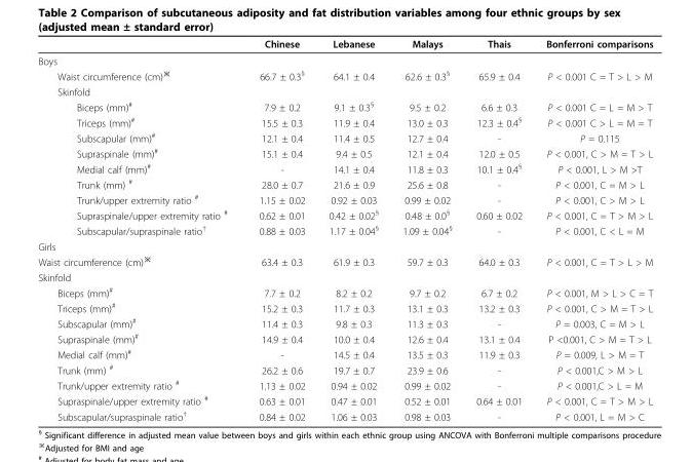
<table><thead><tr><td></td><td>Chinese</td><td>Lebanese</td><td>Malays</td><td>Thais</td><td>Bonferroni comparisons</td></tr></thead><tbody><tr><td colspan="6">Boys</td></tr><tr><td>Waist circumference (cm)<sup>※</sup></td><td>66.7 ± 0.3<sup>§</sup></td><td>64.1 ± 0.4</td><td>62.6 ± 0.3<sup>§</sup></td><td>65.9 ± 0.4</td><td>P &lt; 0.001 C = T &gt; L &gt; M</td></tr><tr><td colspan="6">Skinfold</td></tr><tr><td>Biceps (mm)<sup>#</sup></td><td>7.9 ± 0.2</td><td>9.1 ± 0.3<sup>§</sup></td><td>9.5 ± 0.2</td><td>6.6 ± 0.3</td><td>P &lt; 0.001 C = L = M &gt; T</td></tr><tr><td>Triceps (mm)<sup>#</sup></td><td>15.5 ± 0.3</td><td>11.9 ± 0.4</td><td>13.0 ± 0.3</td><td>12.3 ± 0.4<sup>§</sup></td><td>P &lt; 0.001 C &gt; L = M = T</td></tr><tr><td>Subscapular (mm)<sup>#</sup></td><td>12.1 ± 0.4</td><td>11.4 ± 0.5</td><td>12.7 ± 0.4</td><td>-</td><td>P = 0.115</td></tr><tr><td>Supraspinale (mm)<sup>#</sup></td><td>15.1 ± 0.4</td><td>9.4 ± 0.5</td><td>12.1 ± 0.4</td><td>12.0 ± 0.5</td><td>P &lt; 0.001, C &gt; M = T &gt; L</td></tr><tr><td>Medial calf (mm)<sup>#</sup></td><td>-</td><td>14.1 ± 0.4</td><td>11.8 ± 0.3</td><td>10.1 ± 0.4<sup>§</sup></td><td>P &lt; 0.001, L &gt; M &gt;T</td></tr><tr><td>Trunk (mm) <sup>#</sup></td><td>28.0 ± 0.7</td><td>21.6 ± 0.9</td><td>25.6 ± 0.8</td><td>-</td><td>P &lt; 0.001, C = M &gt; L</td></tr><tr><td>Trunk/upper extremity ratio <sup>#</sup></td><td>1.15 ± 0.02</td><td>0.92 ± 0.03</td><td>0.99 ± 0.02</td><td>-</td><td>P &lt; 0.001, C &gt; M &gt; L</td></tr><tr><td>Supraspinale/upper extremity ratio <sup>#</sup></td><td>0.62 ± 0.01</td><td>0.42 ± 0.02<sup>§</sup></td><td>0.48 ± 0.0<sup>§</sup></td><td>0.60 ± 0.02</td><td>P &lt; 0.001, C = T &gt; M &gt; L</td></tr><tr><td>Subscapular/supraspinale ratio<sup>†</sup></td><td>0.88 ± 0.03</td><td>1.17 ± 0.04<sup>§</sup></td><td>1.09 ± 0.04<sup>§</sup></td><td>-</td><td>P &lt; 0.001, C &lt; L = M</td></tr><tr><td colspan="6">Girls</td></tr><tr><td>Waist circumference (cm)<sup>※</sup></td><td>63.4 ± 0.3</td><td>61.9 ± 0.3</td><td>59.7 ± 0.3</td><td>64.0 ± 0.3</td><td>P &lt; 0.001, C = T &gt; L &gt; M</td></tr><tr><td colspan="6">Skinfold</td></tr><tr><td>Biceps (mm)<sup>#</sup></td><td>7.7 ± 0.2</td><td>8.2 ± 0.2</td><td>9.7 ± 0.2</td><td>6.7 ± 0.2</td><td>P &lt; 0.001, M &gt; L &gt; C = T</td></tr><tr><td>Triceps (mm)<sup>#</sup></td><td>15.2 ± 0.3</td><td>11.7 ± 0.3</td><td>13.1 ± 0.3</td><td>13.2 ± 0.3</td><td>P &lt; 0.001, C &gt; M = T &gt; L</td></tr><tr><td>Subscapular (mm)<sup>#</sup></td><td>11.4 ± 0.3</td><td>9.8 ± 0.3</td><td>11.3 ± 0.3</td><td>-</td><td>P = 0.003, C = M &gt; L</td></tr><tr><td>Supraspinale (mm)<sup>#</sup></td><td>14.9 ± 0.4</td><td>10.0 ± 0.4</td><td>12.6 ± 0.4</td><td>13.1 ± 0.4</td><td>P &lt;0.001, C &gt; M = T &gt; L</td></tr><tr><td>Medial calf (mm)<sup>#</sup></td><td>-</td><td>14.5 ± 0.4</td><td>13.5 ± 0.3</td><td>11.9 ± 0.3</td><td>P = 0.009, L &gt; M = T</td></tr><tr><td>Trunk (mm) <sup>#</sup></td><td>26.2 ± 0.6</td><td>19.7 ± 0.7</td><td>23.9 ± 0.6</td><td>-</td><td>P &lt; 0.001,C &gt; M &gt; L</td></tr><tr><td>Trunk/upper extremity ratio <sup>#</sup></td><td>1.13 ± 0.02</td><td>0.94 ± 0.02</td><td>0.99 ± 0.02</td><td>-</td><td>P &lt; 0.001,C &gt; L = M</td></tr><tr><td>Supraspinale/upper extremity ratio <sup>#</sup></td><td>0.63 ± 0.01</td><td>0.47 ± 0.01</td><td>0.52 ± 0.01</td><td>0.64 ± 0.01</td><td>P &lt; 0.001, C = T &gt; M &gt; L</td></tr><tr><td>Subscapular/supraspinale ratio<sup>†</sup></td><td>0.84 ± 0.02</td><td>1.06 ± 0.03</td><td>0.98 ± 0.03</td><td>-</td><td>P &lt; 0.001, L = M &gt; C</td></tr></tbody></table>